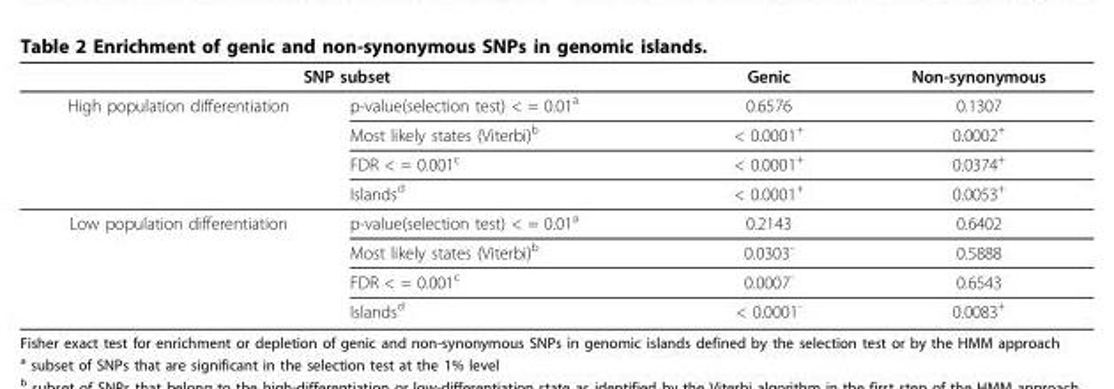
<table><thead><tr><td colspan="2">SNP subset</td><td rowspan="2">Genic 0.6576</td><td rowspan="2">Non-synonymous 0.1307</td></tr><tr><td>High population differentiation</td><td>p-value(selection test) &lt; = 0.01a</td></tr></thead><tbody><tr><td></td><td>Most likely states (Viterbi)b</td><td>&lt; 0.0001+</td><td>0.0002+</td></tr><tr><td></td><td>FDR &lt; = 0.001c</td><td>&lt; 0.0001+</td><td>0.0374+</td></tr><tr><td></td><td>Islandsd</td><td>&lt; 0.0001+</td><td>0.0053+</td></tr><tr><td rowspan="4">Low population differentiation</td><td>p-value(selection test) &lt; = 0.01a</td><td>0.2143</td><td>0.6402</td></tr><tr><td>Most likely states (Viterbi)b</td><td>0.0303-</td><td>0.5888</td></tr><tr><td>FDR &lt; = 0.001c</td><td>0.0007-</td><td>0.6543</td></tr><tr><td>Islandsd</td><td>&lt; 0.0001-</td><td>0.0083+</td></tr></tbody></table>